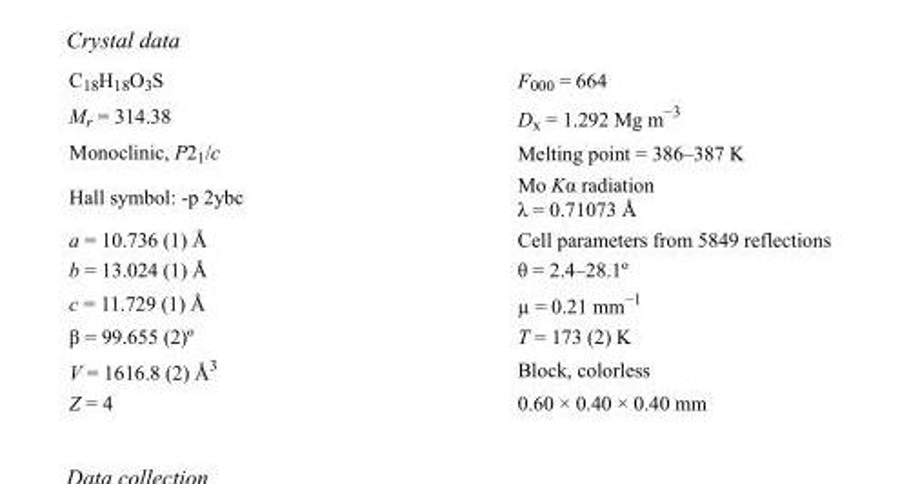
<table><tbody><tr><td>C<sub>18</sub>H<sub>18</sub>O<sub>3</sub>S</td><td>F<sub>000</sub> = 664</td></tr><tr><td>M<sub>r</sub> = 314.38</td><td>D<sub>x</sub> = 1.292 Mg m<sup>−3</sup></td></tr><tr><td>Monoclinic, P2<sub>1</sub>/c</td><td>Melting point = 386–387 K</td></tr><tr><td>Hall symbol: -p 2ybc</td><td>Mo Kα radiation λ = 0.71073 Å</td></tr><tr><td>a = 10.736 (1) Å</td><td>Cell parameters from 5849 reflections</td></tr><tr><td>b = 13.024 (1) Å</td><td>θ = 2.4–28.1º</td></tr><tr><td>c = 11.729 (1) Å</td><td>µ = 0.21 mm<sup>−1</sup></td></tr><tr><td>β = 99.655 (2)º</td><td>T = 173 (2) K</td></tr><tr><td>V = 1616.8 (2) Å<sup>3</sup></td><td>Block, colorless</td></tr><tr><td>Z = 4</td><td>0.60 × 0.40 × 0.40 mm</td></tr></tbody></table>